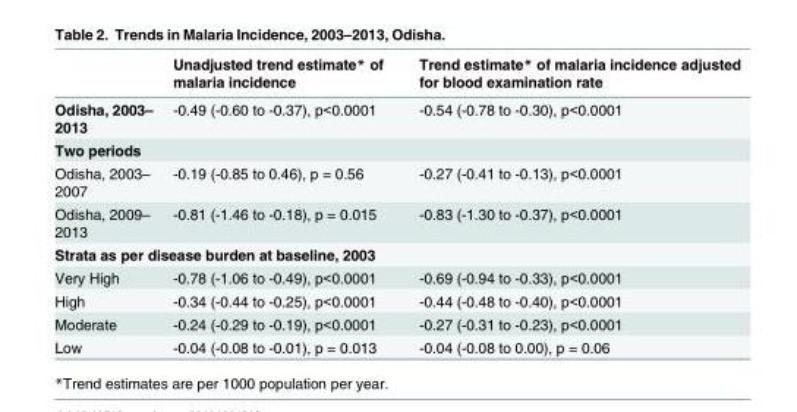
<table><thead><tr><td></td><td>Unadjusted trend estimate* of malaria incidence</td><td>Trend estimate* of malaria incidence adjusted for blood examination rate</td></tr></thead><tbody><tr><td>Odisha, 2003– 2013</td><td>-0.49 (-0.60 to -0.37), p&lt;0.0001</td><td>-0.54 (-0.78 to -0.30), p&lt;0.0001</td></tr><tr><td colspan="3">Two periods</td></tr><tr><td>Odisha, 2003– 2007</td><td>-0.19 (-0.85 to 0.46), p = 0.56</td><td>-0.27 (-0.41 to -0.13), p&lt;0.0001</td></tr><tr><td>Odisha, 2009– 2013</td><td>-0.81 (-1.46 to -0.18), p = 0.015</td><td>-0.83 (-1.30 to -0.37), p&lt;0.0001</td></tr><tr><td colspan="3">Strata as per disease burden at baseline, 2003</td></tr><tr><td>Very High</td><td>-0.78 (-1.06 to -0.49), p&lt;0.0001</td><td>-0.69 (-0.94 to -0.33), p&lt;0.0001</td></tr><tr><td>High</td><td>-0.34 (-0.44 to -0.25), p&lt;0.0001</td><td>-0.44 (-0.48 to -0.40), p&lt;0.0001</td></tr><tr><td>Moderate</td><td>-0.24 (-0.29 to -0.19), p&lt;0.0001</td><td>-0.27 (-0.31 to -0.23), p&lt;0.0001</td></tr><tr><td>Low</td><td>-0.04 (-0.08 to -0.01), p = 0.013</td><td>-0.04 (-0.08 to 0.00), p = 0.06</td></tr></tbody></table>